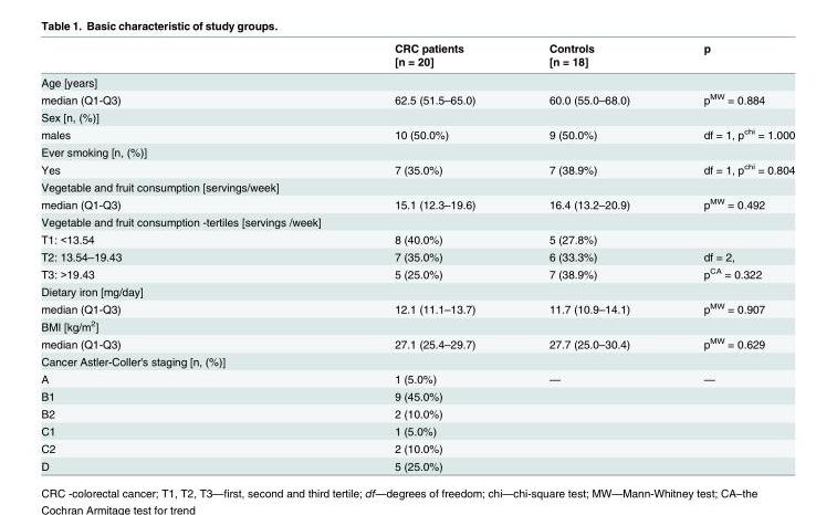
<table><thead><tr><td rowspan="2"></td><td rowspan="2">CRC patients [n = 20]</td><td rowspan="2">Controls [n = 18]</td><td rowspan="2">p</td></tr><tr></tr></thead><tbody><tr><td colspan="4">Age [years]</td></tr><tr><td>median (Q1-Q3)</td><td>62.5 (51.5–65.0)</td><td>60.0 (55.0–68.0)</td><td>p<sup>MW</sup> = 0.884</td></tr><tr><td colspan="4">Sex [n, (%)]</td></tr><tr><td>males</td><td>10 (50.0%)</td><td>9 (50.0%)</td><td>df = 1, p<sup>chi</sup> = 1.000</td></tr><tr><td colspan="4">Ever smoking [n, (%)]</td></tr><tr><td>Yes</td><td>7 (35.0%)</td><td>7 (38.9%)</td><td>df = 1, p<sup>chi</sup> = 0.804</td></tr><tr><td colspan="4">Vegetable and fruit consumption [servings/week]</td></tr><tr><td>median (Q1-Q3)</td><td>15.1 (12.3–19.6)</td><td>16.4 (13.2–20.9)</td><td>p<sup>MW</sup> = 0.492</td></tr><tr><td colspan="4">Vegetable and fruit consumption -tertiles [servings /week]</td></tr><tr><td>T1: &lt;13.54</td><td>8 (40.0%)</td><td>5 (27.8%)</td><td></td></tr><tr><td>T2: 13.54–19.43</td><td>7 (35.0%)</td><td>6 (33.3%)</td><td>df = 2,</td></tr><tr><td>T3: &gt;19.43</td><td>5 (25.0%)</td><td>7 (38.9%)</td><td>p<sup>CA</sup> = 0.322</td></tr><tr><td colspan="4">Dietary iron [mg/day]</td></tr><tr><td>median (Q1-Q3)</td><td>12.1 (11.1–13.7)</td><td>11.7 (10.9–14.1)</td><td>p<sup>MW</sup> = 0.907</td></tr><tr><td colspan="4">BMI [kg/m<sup>2</sup>]</td></tr><tr><td>median (Q1-Q3)</td><td>27.1 (25.4–29.7)</td><td>27.7 (25.0–30.4)</td><td>p<sup>MW</sup> = 0.629</td></tr><tr><td colspan="4">Cancer Astler-Coller&#x27;s staging [n, (%)]</td></tr><tr><td>A</td><td>1 (5.0%)</td><td>—</td><td>—</td></tr><tr><td>B1</td><td>9 (45.0%)</td><td></td><td></td></tr><tr><td>B2</td><td>2 (10.0%)</td><td></td><td></td></tr><tr><td>C1</td><td>1 (5.0%)</td><td></td><td></td></tr><tr><td>C2</td><td>2 (10.0%)</td><td></td><td></td></tr><tr><td>D</td><td>5 (25.0%)</td><td></td><td></td></tr></tbody></table>